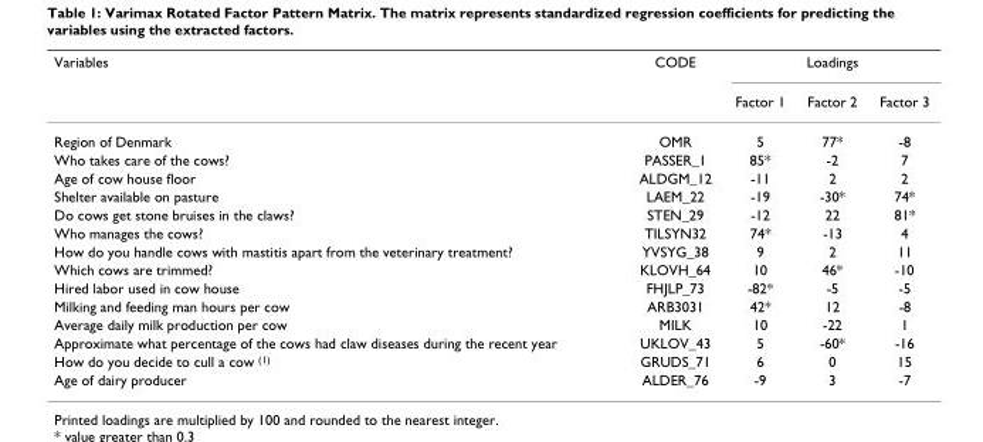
<table><thead><tr><td rowspan="2">Variables</td><td rowspan="2">CODE</td><td colspan="3">Loadings</td></tr><tr><td>Factor 1</td><td>Factor 2</td><td>Factor 3</td></tr></thead><tbody><tr><td>Region of Denmark</td><td>OMR</td><td>5</td><td>77*</td><td>-8</td></tr><tr><td>Who takes care of the cows?</td><td>PASSER_1</td><td>85*</td><td>-2</td><td>7</td></tr><tr><td>Age of cow house floor</td><td>ALDGM_12</td><td>-11</td><td>2</td><td>2</td></tr><tr><td>Shelter available on pasture</td><td>LAEM_22</td><td>-19</td><td>-30*</td><td>74*</td></tr><tr><td>Do cows get stone bruises in the claws?</td><td>STEN_29</td><td>-12</td><td>22</td><td>81*</td></tr><tr><td>Who manages the cows?</td><td>TILSYN32</td><td>74*</td><td>-13</td><td>4</td></tr><tr><td>How do you handle cows with mastitis apart from the veterinary treatment?</td><td>YVSYG_38</td><td>9</td><td>2</td><td>11</td></tr><tr><td>Which cows are trimmed?</td><td>KLOVH_64</td><td>10</td><td>46*</td><td>-10</td></tr><tr><td>Hired labor used in cow house</td><td>FHJLP_73</td><td>-82*</td><td>-5</td><td>-5</td></tr><tr><td>Milking and feeding man hours per cow</td><td>ARB3031</td><td>42*</td><td>12</td><td>-8</td></tr><tr><td>Average daily milk production per cow</td><td>MILK</td><td>10</td><td>-22</td><td>1</td></tr><tr><td>Approximate what percentage of the cows had claw diseases during the recent year</td><td>UKLOV_43</td><td>5</td><td>-60*</td><td>-16</td></tr><tr><td>How do you decide to cull a cow <sup>(1)</sup></td><td>GRUDS_71</td><td>6</td><td>0</td><td>15</td></tr><tr><td>Age of dairy producer</td><td>ALDER_76</td><td>-9</td><td>3</td><td>-7</td></tr></tbody></table>